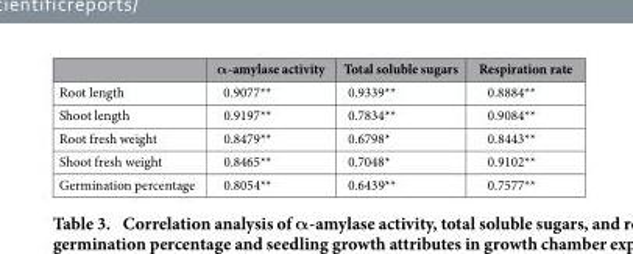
<table><thead><tr><td></td><td>α-amylase activity</td><td>Total soluble sugars</td><td>Respiration rate</td></tr></thead><tbody><tr><td>Root length</td><td>0.9077**</td><td>0.9339**</td><td>0.8884**</td></tr><tr><td>Shoot length</td><td>0.9197**</td><td>0.7834**</td><td>0.9084**</td></tr><tr><td>Root fresh weight</td><td>0.8479**</td><td>0.6798*</td><td>0.8443**</td></tr><tr><td>Shoot fresh weight</td><td>0.8465**</td><td>0.7048*</td><td>0.9102**</td></tr><tr><td>Germination percentage</td><td>0.8054**</td><td>0.6439**</td><td>0.7577**</td></tr></tbody></table>